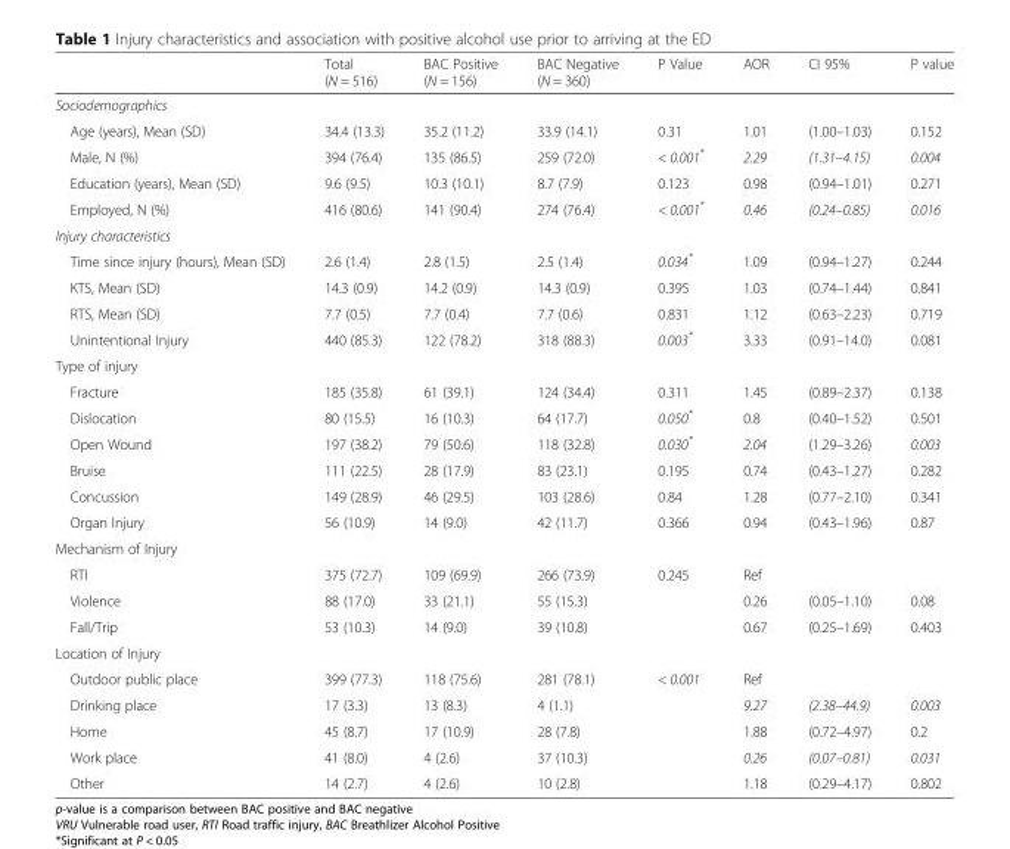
<table><thead><tr><td></td><td>Total (N = 516)</td><td>BAC Positive (N = 156)</td><td>BAC Negative (N = 360)</td><td>P Value</td><td>AOR</td><td>CI 95%</td><td>P value</td></tr></thead><tbody><tr><td colspan="8">Sociodemographics</td></tr><tr><td>Age (years), Mean (SD)</td><td>34.4 (13.3)</td><td>35.2 (11.2)</td><td>33.9 (14.1)</td><td>0.31</td><td>1.01</td><td>(1.00–1.03)</td><td>0.152</td></tr><tr><td>Male, N (%)</td><td>394 (76.4)</td><td>135 (86.5)</td><td>259 (72.0)</td><td>&lt; 0.001*</td><td>2.29</td><td>(1.31–4.15)</td><td>0.004</td></tr><tr><td>Education (years), Mean (SD)</td><td>9.6 (9.5)</td><td>10.3 (10.1)</td><td>8.7 (7.9)</td><td>0.123</td><td>0.98</td><td>(0.94–1.01)</td><td>0.271</td></tr><tr><td>Employed, N (%)</td><td>416 (80.6)</td><td>141 (90.4)</td><td>274 (76.4)</td><td>&lt; 0.001*</td><td>0.46</td><td>(0.24–0.85)</td><td>0.016</td></tr><tr><td colspan="8">Injury characteristics</td></tr><tr><td>Time since injury (hours), Mean (SD)</td><td>2.6 (1.4)</td><td>2.8 (1.5)</td><td>2.5 (1.4)</td><td>0.034*</td><td>1.09</td><td>(0.94–1.27)</td><td>0.244</td></tr><tr><td>KTS, Mean (SD)</td><td>14.3 (0.9)</td><td>14.2 (0.9)</td><td>14.3 (0.9)</td><td>0.395</td><td>1.03</td><td>(0.74–1.44)</td><td>0.841</td></tr><tr><td>RTS, Mean (SD)</td><td>7.7 (0.5)</td><td>7.7 (0.4)</td><td>7.7 (0.6)</td><td>0.831</td><td>1.12</td><td>(0.63–2.23)</td><td>0.719</td></tr><tr><td>Unintentional Injury</td><td>440 (85.3)</td><td>122 (78.2)</td><td>318 (88.3)</td><td>0.003*</td><td>3.33</td><td>(0.91–14.0)</td><td>0.081</td></tr><tr><td colspan="8">Type of injury</td></tr><tr><td>Fracture</td><td>185 (35.8)</td><td>61 (39.1)</td><td>124 (34.4)</td><td>0.311</td><td>1.45</td><td>(0.89–2.37)</td><td>0.138</td></tr><tr><td>Dislocation</td><td>80 (15.5)</td><td>16 (10.3)</td><td>64 (17.7)</td><td>0.050*</td><td>0.8</td><td>(0.40–1.52)</td><td>0.501</td></tr><tr><td>Open Wound</td><td>197 (38.2)</td><td>79 (50.6)</td><td>118 (32.8)</td><td>0.030*</td><td>2.04</td><td>(1.29–3.26)</td><td>0.003</td></tr><tr><td>Bruise</td><td>111 (22.5)</td><td>28 (17.9)</td><td>83 (23.1)</td><td>0.195</td><td>0.74</td><td>(0.43–1.27)</td><td>0.282</td></tr><tr><td>Concussion</td><td>149 (28.9)</td><td>46 (29.5)</td><td>103 (28.6)</td><td>0.84</td><td>1.28</td><td>(0.77–2.10)</td><td>0.341</td></tr><tr><td>Organ Injury</td><td>56 (10.9)</td><td>14 (9.0)</td><td>42 (11.7)</td><td>0.366</td><td>0.94</td><td>(0.43–1.96)</td><td>0.87</td></tr><tr><td colspan="8">Mechanism of Injury</td></tr><tr><td>RTI</td><td>375 (72.7)</td><td>109 (69.9)</td><td>266 (73.9)</td><td>0.245</td><td>Ref</td><td></td><td></td></tr><tr><td>Violence</td><td>88 (17.0)</td><td>33 (21.1)</td><td>55 (15.3)</td><td></td><td>0.26</td><td>(0.05–1.10)</td><td>0.08</td></tr><tr><td>Fall/Trip</td><td>53 (10.3)</td><td>14 (9.0)</td><td>39 (10.8)</td><td></td><td>0.67</td><td>(0.25–1.69)</td><td>0.403</td></tr><tr><td colspan="8">Location of Injury</td></tr><tr><td>Outdoor public place</td><td>399 (77.3)</td><td>118 (75.6)</td><td>281 (78.1)</td><td>&lt; 0.001</td><td>Ref</td><td></td><td></td></tr><tr><td>Drinking place</td><td>17 (3.3)</td><td>13 (8.3)</td><td>4 (1.1)</td><td></td><td>9.27</td><td>(2.38–44.9)</td><td>0.003</td></tr><tr><td>Home</td><td>45 (8.7)</td><td>17 (10.9)</td><td>28 (7.8)</td><td></td><td>1.88</td><td>(0.72–4.97)</td><td>0.2</td></tr><tr><td>Work place</td><td>41 (8.0)</td><td>4 (2.6)</td><td>37 (10.3)</td><td></td><td>0.26</td><td>(0.07–0.81)</td><td>0.031</td></tr><tr><td>Other</td><td>14 (2.7)</td><td>4 (2.6)</td><td>10 (2.8)</td><td></td><td>1.18</td><td>(0.29–4.17)</td><td>0.802</td></tr></tbody></table>